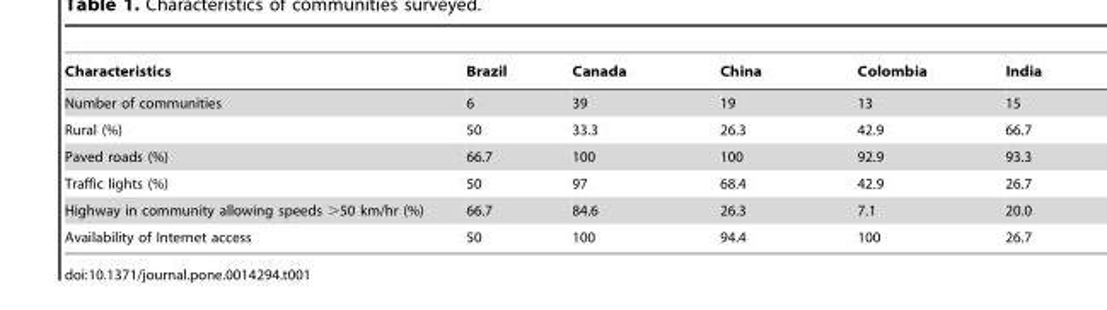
<table><thead><tr><td>Characteristics</td><td>Brazil</td><td>Canada</td><td>China</td><td>Colombia</td><td>India</td></tr></thead><tbody><tr><td>Number of communities</td><td>6</td><td>39</td><td>19</td><td>13</td><td>15</td></tr><tr><td>Rural (%)</td><td>50</td><td>33.3</td><td>26.3</td><td>42.9</td><td>66.7</td></tr><tr><td>Paved roads (%)</td><td>66.7</td><td>100</td><td>100</td><td>92.9</td><td>93.3</td></tr><tr><td>Traffic lights (%)</td><td>50</td><td>97</td><td>68.4</td><td>42.9</td><td>26.7</td></tr><tr><td>Highway in community allowing speeds &gt;50 km/hr (%)</td><td>66.7</td><td>84.6</td><td>26.3</td><td>7.1</td><td>20.0</td></tr><tr><td>Availability of Internet access</td><td>50</td><td>100</td><td>94.4</td><td>100</td><td>26.7</td></tr></tbody></table>